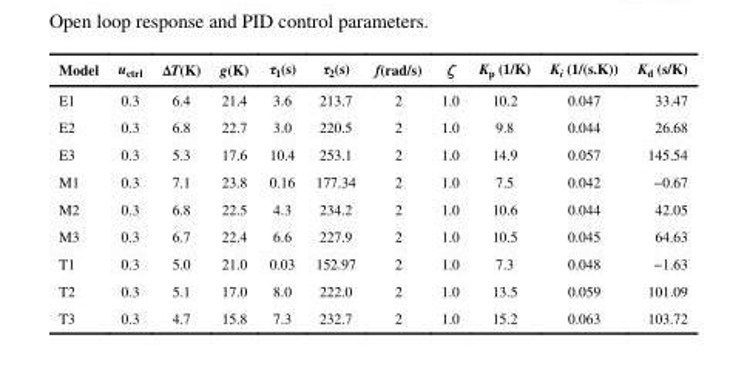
<table><thead><tr><td>Model</td><td>u<sub>ctrl</sub></td><td>ΔT(K)</td><td>g(K)</td><td>τ<sub>1</sub>(s)</td><td>τ<sub>2</sub>(s)</td><td>f(rad/s)</td><td>ζ</td><td>K<sub>p</sub> (1/K)</td><td>K<sub>i</sub> (1/(s.K))</td><td>K<sub>d</sub> (s/K)</td></tr></thead><tbody><tr><td>E1</td><td>0.3</td><td>6.4</td><td>21.4</td><td>3.6</td><td>213.7</td><td>2</td><td>1.0</td><td>10.2</td><td>0.047</td><td>33.47</td></tr><tr><td>E2</td><td>0.3</td><td>6.8</td><td>22.7</td><td>3.0</td><td>220.5</td><td>2</td><td>1.0</td><td>9.8</td><td>0.044</td><td>26.68</td></tr><tr><td>E3</td><td>0.3</td><td>5.3</td><td>17.6</td><td>10.4</td><td>253.1</td><td>2</td><td>1.0</td><td>14.9</td><td>0.057</td><td>145.54</td></tr><tr><td>M1</td><td>0.3</td><td>7.1</td><td>23.8</td><td>0.16</td><td>177.34</td><td>2</td><td>1.0</td><td>7.5</td><td>0.042</td><td>−0.67</td></tr><tr><td>M2</td><td>0.3</td><td>6.8</td><td>22.5</td><td>4.3</td><td>234.2</td><td>2</td><td>1.0</td><td>10.6</td><td>0.044</td><td>42.05</td></tr><tr><td>M3</td><td>0.3</td><td>6.7</td><td>22.4</td><td>6.6</td><td>227.9</td><td>2</td><td>1.0</td><td>10.5</td><td>0.045</td><td>64.63</td></tr><tr><td>T1</td><td>0.3</td><td>5.0</td><td>21.0</td><td>0.03</td><td>152.97</td><td>2</td><td>1.0</td><td>7.3</td><td>0.048</td><td>−1.63</td></tr><tr><td>T2</td><td>0.3</td><td>5.1</td><td>17.0</td><td>8.0</td><td>222.0</td><td>2</td><td>1.0</td><td>13.5</td><td>0.059</td><td>101.09</td></tr><tr><td>T3</td><td>0.3</td><td>4.7</td><td>15.8</td><td>7.3</td><td>232.7</td><td>2</td><td>1.0</td><td>15.2</td><td>0.063</td><td>103.72</td></tr></tbody></table>